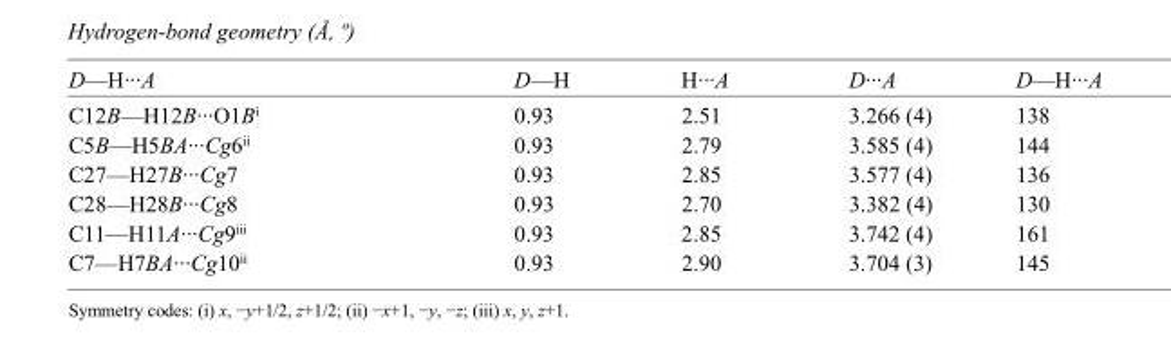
<table><tbody><tr><td>D—H···A</td><td>D—H</td><td>H···A</td><td>D···A</td><td>D—H···A</td></tr><tr><td>C12B—H12B···O1B<sup>i</sup></td><td>0.93</td><td>2.51</td><td>3.266 (4)</td><td>138</td></tr><tr><td>C5B—H5BA···Cg6<sup>ii</sup></td><td>0.93</td><td>2.79</td><td>3.585 (4)</td><td>144</td></tr><tr><td>C27—H27B···Cg7</td><td>0.93</td><td>2.85</td><td>3.577 (4)</td><td>136</td></tr><tr><td>C28—H28B···Cg8</td><td>0.93</td><td>2.70</td><td>3.382 (4)</td><td>130</td></tr><tr><td>C11—H11A···Cg9<sup>iii</sup></td><td>0.93</td><td>2.85</td><td>3.742 (4)</td><td>161</td></tr><tr><td>C7—H7BA···Cg10<sup>ii</sup></td><td>0.93</td><td>2.90</td><td>3.704 (3)</td><td>145</td></tr></tbody></table>